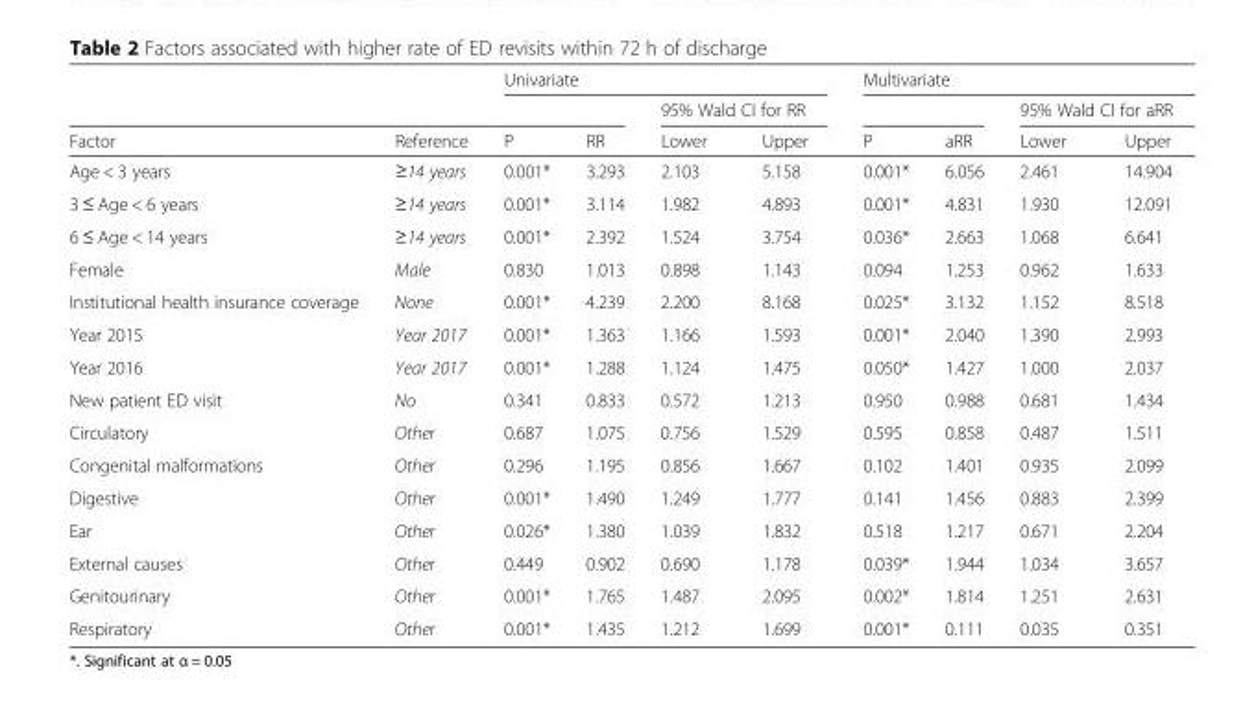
<table><thead><tr><td rowspan="3">Factor</td><td rowspan="3">Reference</td><td colspan="4">Univariate</td><td colspan="4">Multivariate</td></tr><tr><td rowspan="2">P</td><td rowspan="2">RR</td><td colspan="2">95% Wald CI for RR</td><td rowspan="2">P</td><td rowspan="2">aRR</td><td colspan="2">95% Wald CI for aRR</td></tr><tr><td>Lower</td><td>Upper</td><td>Lower</td><td>Upper</td></tr></thead><tbody><tr><td>Age &lt; 3 years</td><td>≥14 years</td><td>0.001*</td><td>3.293</td><td>2.103</td><td>5.158</td><td>0.001*</td><td>6.056</td><td>2.461</td><td>14.904</td></tr><tr><td>3 ≤ Age &lt; 6 years</td><td>≥14 years</td><td>0.001*</td><td>3.114</td><td>1.982</td><td>4.893</td><td>0.001*</td><td>4.831</td><td>1.930</td><td>12.091</td></tr><tr><td>6 ≤ Age &lt; 14 years</td><td>≥14 years</td><td>0.001*</td><td>2.392</td><td>1.524</td><td>3.754</td><td>0.036*</td><td>2.663</td><td>1.068</td><td>6.641</td></tr><tr><td>Female</td><td>Male</td><td>0.830</td><td>1.013</td><td>0.898</td><td>1.143</td><td>0.094</td><td>1.253</td><td>0.962</td><td>1.633</td></tr><tr><td>Institutional health insurance coverage</td><td>None</td><td>0.001*</td><td>4.239</td><td>2.200</td><td>8.168</td><td>0.025*</td><td>3.132</td><td>1.152</td><td>8.518</td></tr><tr><td>Year 2015</td><td>Year 2017</td><td>0.001*</td><td>1.363</td><td>1.166</td><td>1.593</td><td>0.001*</td><td>2.040</td><td>1.390</td><td>2.993</td></tr><tr><td>Year 2016</td><td>Year 2017</td><td>0.001*</td><td>1.288</td><td>1.124</td><td>1.475</td><td>0.050*</td><td>1.427</td><td>1.000</td><td>2.037</td></tr><tr><td>New patient ED visit</td><td>No</td><td>0.341</td><td>0.833</td><td>0.572</td><td>1.213</td><td>0.950</td><td>0.988</td><td>0.681</td><td>1.434</td></tr><tr><td>Circulatory</td><td>Other</td><td>0.687</td><td>1.075</td><td>0.756</td><td>1.529</td><td>0.595</td><td>0.858</td><td>0.487</td><td>1.511</td></tr><tr><td>Congenital malformations</td><td>Other</td><td>0.296</td><td>1.195</td><td>0.856</td><td>1.667</td><td>0.102</td><td>1.401</td><td>0.935</td><td>2.099</td></tr><tr><td>Digestive</td><td>Other</td><td>0.001*</td><td>1.490</td><td>1.249</td><td>1.777</td><td>0.141</td><td>1.456</td><td>0.883</td><td>2.399</td></tr><tr><td>Ear</td><td>Other</td><td>0.026*</td><td>1.380</td><td>1.039</td><td>1.832</td><td>0.518</td><td>1.217</td><td>0.671</td><td>2.204</td></tr><tr><td>External causes</td><td>Other</td><td>0.449</td><td>0.902</td><td>0.690</td><td>1.178</td><td>0.039*</td><td>1.944</td><td>1.034</td><td>3.657</td></tr><tr><td>Genitourinary</td><td>Other</td><td>0.001*</td><td>1.765</td><td>1.487</td><td>2.095</td><td>0.002*</td><td>1.814</td><td>1.251</td><td>2.631</td></tr><tr><td>Respiratory</td><td>Other</td><td>0.001*</td><td>1.435</td><td>1.212</td><td>1.699</td><td>0.001*</td><td>0.111</td><td>0.035</td><td>0.351</td></tr></tbody></table>